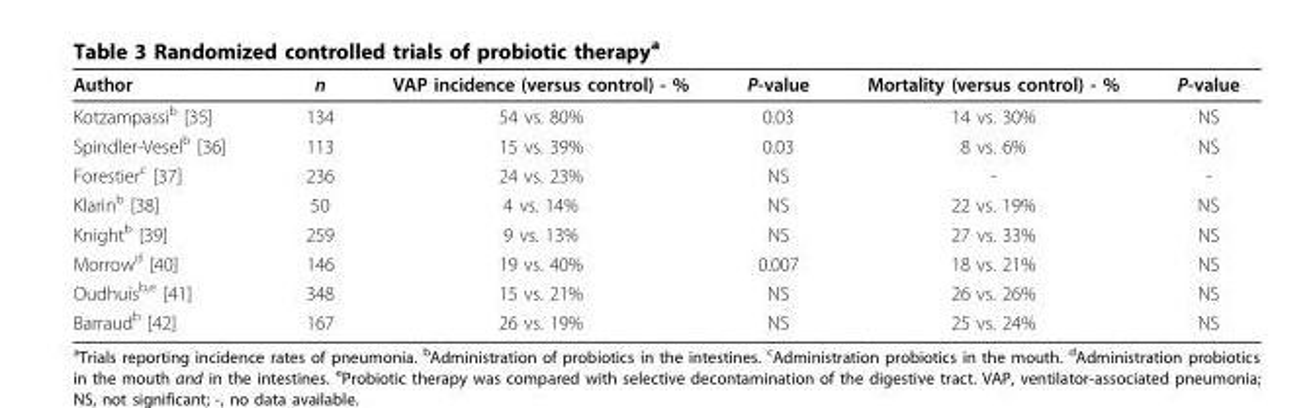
<table><thead><tr><td>Author</td><td>n</td><td>VAP incidence (versus control) - %</td><td>P-value</td><td>Mortality (versus control) - %</td><td>P-value</td></tr></thead><tbody><tr><td>Kotzampassi<sup>b</sup> [35]</td><td>134</td><td>54 vs. 80%</td><td>0.03</td><td>14 vs. 30%</td><td>NS</td></tr><tr><td>Spindler-Vesel<sup>b</sup> [36]</td><td>113</td><td>15 vs. 39%</td><td>0.03</td><td>8 vs. 6%</td><td>NS</td></tr><tr><td>Forestier<sup>c</sup> [37]</td><td>236</td><td>24 vs. 23%</td><td>NS</td><td>-</td><td>-</td></tr><tr><td>Klarin<sup>b</sup> [38]</td><td>50</td><td>4 vs. 14%</td><td>NS</td><td>22 vs. 19%</td><td>NS</td></tr><tr><td>Knight<sup>b</sup> [39]</td><td>259</td><td>9 vs. 13%</td><td>NS</td><td>27 vs. 33%</td><td>NS</td></tr><tr><td>Morrow<sup>d</sup> [40]</td><td>146</td><td>19 vs. 40%</td><td>0.007</td><td>18 vs. 21%</td><td>NS</td></tr><tr><td>Oudhuis<sup>b,e</sup> [41]</td><td>348</td><td>15 vs. 21%</td><td>NS</td><td>26 vs. 26%</td><td>NS</td></tr><tr><td>Barraud<sup>b</sup> [42]</td><td>167</td><td>26 vs. 19%</td><td>NS</td><td>25 vs. 24%</td><td>NS</td></tr></tbody></table>